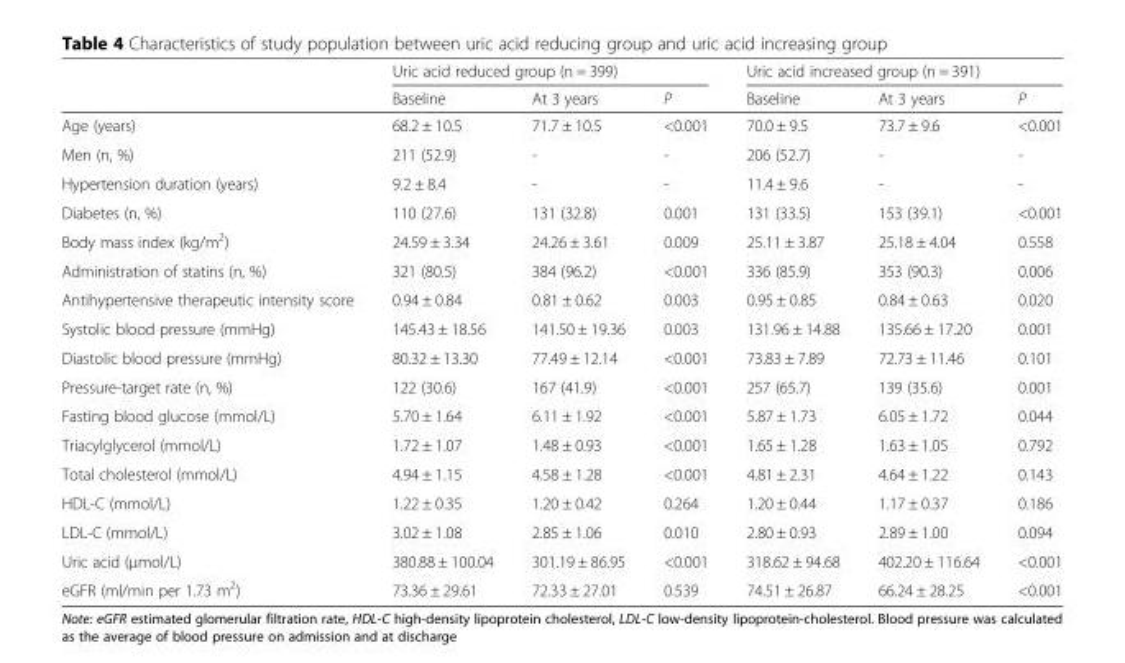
<table><thead><tr><td rowspan="2"></td><td colspan="3">Uric acid reduced group (n = 399)</td><td colspan="3">Uric acid increased group (n = 391)</td></tr><tr><td>Baseline</td><td>At 3 years</td><td>P</td><td>Baseline</td><td>At 3 years</td><td>P</td></tr></thead><tbody><tr><td>Age (years)</td><td>68.2 ± 10.5</td><td>71.7 ± 10.5</td><td>&lt;0.001</td><td>70.0 ± 9.5</td><td>73.7 ± 9.6</td><td>&lt;0.001</td></tr><tr><td>Men (n, %)</td><td>211 (52.9)</td><td>-</td><td>-</td><td>206 (52.7)</td><td>-</td><td>-</td></tr><tr><td>Hypertension duration (years)</td><td>9.2 ± 8.4</td><td>-</td><td>-</td><td>11.4 ± 9.6</td><td>-</td><td>-</td></tr><tr><td>Diabetes (n, %)</td><td>110 (27.6)</td><td>131 (32.8)</td><td>0.001</td><td>131 (33.5)</td><td>153 (39.1)</td><td>&lt;0.001</td></tr><tr><td>Body mass index (kg/m<sup>2</sup>)</td><td>24.59 ± 3.34</td><td>24.26 ± 3.61</td><td>0.009</td><td>25.11 ± 3.87</td><td>25.18 ± 4.04</td><td>0.558</td></tr><tr><td>Administration of statins (n, %)</td><td>321 (80.5)</td><td>384 (96.2)</td><td>&lt;0.001</td><td>336 (85.9)</td><td>353 (90.3)</td><td>0.006</td></tr><tr><td>Antihypertensive therapeutic intensity score</td><td>0.94 ± 0.84</td><td>0.81 ± 0.62</td><td>0.003</td><td>0.95 ± 0.85</td><td>0.84 ± 0.63</td><td>0.020</td></tr><tr><td>Systolic blood pressure (mmHg)</td><td>145.43 ± 18.56</td><td>141.50 ± 19.36</td><td>0.003</td><td>131.96 ± 14.88</td><td>135.66 ± 17.20</td><td>0.001</td></tr><tr><td>Diastolic blood pressure (mmHg)</td><td>80.32 ± 13.30</td><td>77.49 ± 12.14</td><td>&lt;0.001</td><td>73.83 ± 7.89</td><td>72.73 ± 11.46</td><td>0.101</td></tr><tr><td>Pressure-target rate (n, %)</td><td>122 (30.6)</td><td>167 (41.9)</td><td>&lt;0.001</td><td>257 (65.7)</td><td>139 (35.6)</td><td>0.001</td></tr><tr><td>Fasting blood glucose (mmol/L)</td><td>5.70 ± 1.64</td><td>6.11 ± 1.92</td><td>&lt;0.001</td><td>5.87 ± 1.73</td><td>6.05 ± 1.72</td><td>0.044</td></tr><tr><td>Triacylglycerol (mmol/L)</td><td>1.72 ± 1.07</td><td>1.48 ± 0.93</td><td>&lt;0.001</td><td>1.65 ± 1.28</td><td>1.63 ± 1.05</td><td>0.792</td></tr><tr><td>Total cholesterol (mmol/L)</td><td>4.94 ± 1.15</td><td>4.58 ± 1.28</td><td>&lt;0.001</td><td>4.81 ± 2.31</td><td>4.64 ± 1.22</td><td>0.143</td></tr><tr><td>HDL-C (mmol/L)</td><td>1.22 ± 0.35</td><td>1.20 ± 0.42</td><td>0.264</td><td>1.20 ± 0.44</td><td>1.17 ± 0.37</td><td>0.186</td></tr><tr><td>LDL-C (mmol/L)</td><td>3.02 ± 1.08</td><td>2.85 ± 1.06</td><td>0.010</td><td>2.80 ± 0.93</td><td>2.89 ± 1.00</td><td>0.094</td></tr><tr><td>Uric acid (μmol/L)</td><td>380.88 ± 100.04</td><td>301.19 ± 86.95</td><td>&lt;0.001</td><td>318.62 ± 94.68</td><td>402.20 ± 116.64</td><td>&lt;0.001</td></tr><tr><td>eGFR (ml/min per 1.73 m<sup>2</sup>)</td><td>73.36 ± 29.61</td><td>72.33 ± 27.01</td><td>0.539</td><td>74.51 ± 26.87</td><td>66.24 ± 28.25</td><td>&lt;0.001</td></tr></tbody></table>